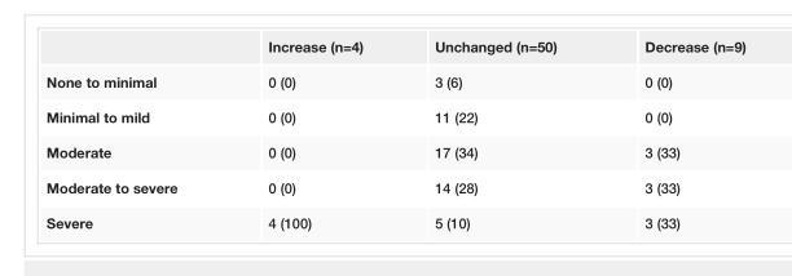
<table><thead><tr><td></td><td>Increase (n=4)</td><td>Unchanged (n=50)</td><td>Decrease (n=9)</td></tr></thead><tbody><tr><td>None to minimal</td><td>0 (0)</td><td>3 (6)</td><td>0 (0)</td></tr><tr><td>Minimal to mild</td><td>0 (0)</td><td>11 (22)</td><td>0 (0)</td></tr><tr><td>Moderate</td><td>0 (0)</td><td>17 (34)</td><td>3 (33)</td></tr><tr><td>Moderate to severe</td><td>0 (0)</td><td>14 (28)</td><td>3 (33)</td></tr><tr><td>Severe</td><td>4 (100)</td><td>5 (10)</td><td>3 (33)</td></tr></tbody></table>